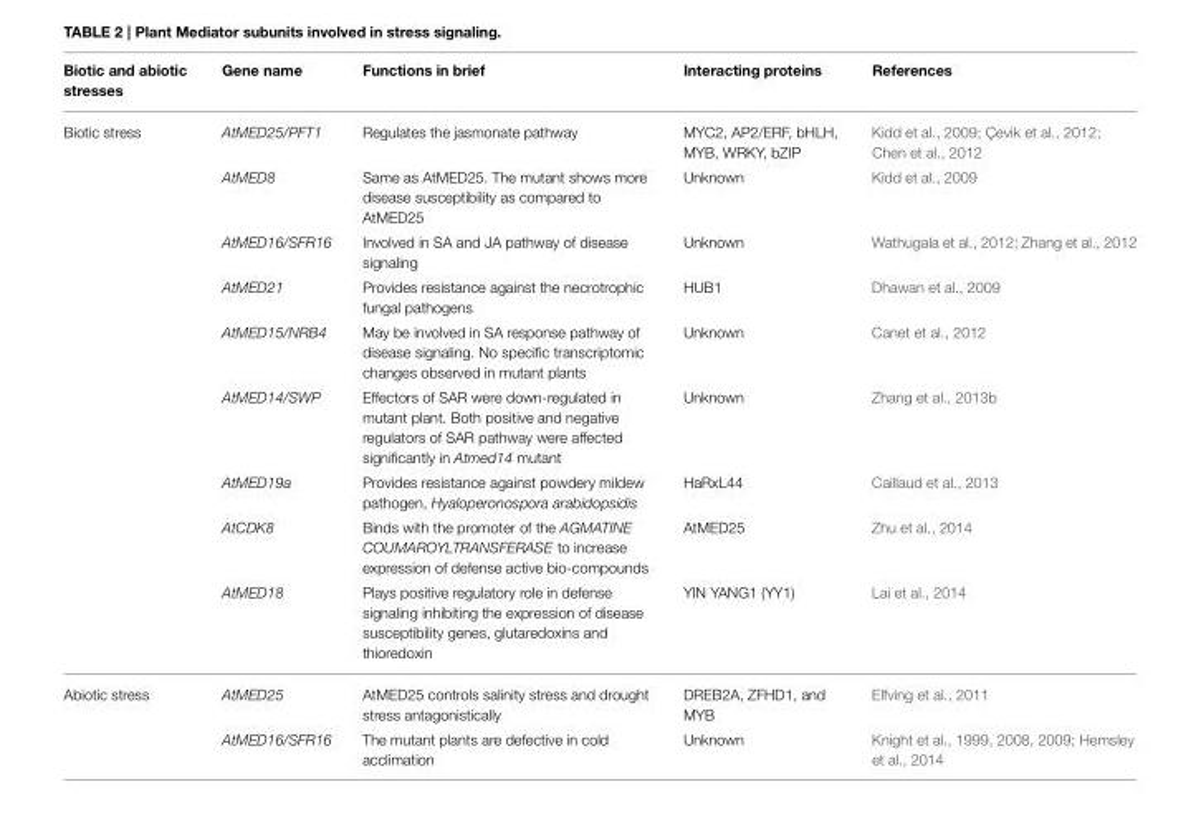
<table><thead><tr><td>Biotic and abiotic stresses</td><td>Gene name</td><td>Functions in brief</td><td>Interacting proteins</td><td>References</td></tr></thead><tbody><tr><td rowspan="9">Biotic stress</td><td>AtMED25/PFT1</td><td>Regulates the jasmonate pathway</td><td>MYC2, AP2/ERF, bHLH, MYB, WRKY, bZIP</td><td>Kidd et al., 2009; Çevik et al., 2012; Chen et al., 2012</td></tr><tr><td>AtMED8</td><td>Same as AtMED25. The mutant shows more disease susceptibility as compared to AtMED25</td><td>Unknown</td><td>Kidd et al., 2009</td></tr><tr><td>AtMED16/SFR16</td><td>Involved in SA and JA pathway of disease signaling</td><td>Unknown</td><td>Wathugala et al., 2012; Zhang et al., 2012</td></tr><tr><td>AtMED21</td><td>Provides resistance against the necrotrophic fungal pathogens</td><td>HUB1</td><td>Dhawan et al., 2009</td></tr><tr><td>AtMED15/NRB4</td><td>May be involved in SA response pathway of disease signaling. No specific transcriptomic changes observed in mutant plants</td><td>Unknown</td><td>Canet et al., 2012</td></tr><tr><td>AtMED14/SWP</td><td>Effectors of SAR were down-regulated in mutant plant. Both positive and negative regulators of SAR pathway were affected significantly in Atmed14 mutant</td><td>Unknown</td><td>Zhang et al., 2013b</td></tr><tr><td>AtMED19a</td><td>Provides resistance against powdery mildew pathogen, Hyaloperonospora arabidopsidis</td><td>HaRxL44</td><td>Caillaud et al., 2013</td></tr><tr><td>AtCDK8</td><td>Binds with the promoter of the AGMATINE COUMAROYLTRANSFERASE to increase expression of defense active bio-compounds</td><td>AtMED25</td><td>Zhu et al., 2014</td></tr><tr><td>AtMED18</td><td>Plays positive regulatory role in defense signaling inhibiting the expression of disease susceptibility genes, glutaredoxins and thioredoxin</td><td>YIN YANG1 (YY1)</td><td>Lai et al., 2014</td></tr><tr><td rowspan="2">Abiotic stress</td><td>AtMED25</td><td>AtMED25 controls salinity stress and drought stress antagonistically</td><td>DREB2A, ZFHD1, and MYB</td><td>Elfving et al., 2011</td></tr><tr><td>AtMED16/SFR16</td><td>The mutant plants are defective in cold acclimation</td><td>Unknown</td><td>Knight et al., 1999, 2008, 2009; Hemsley et al., 2014</td></tr></tbody></table>